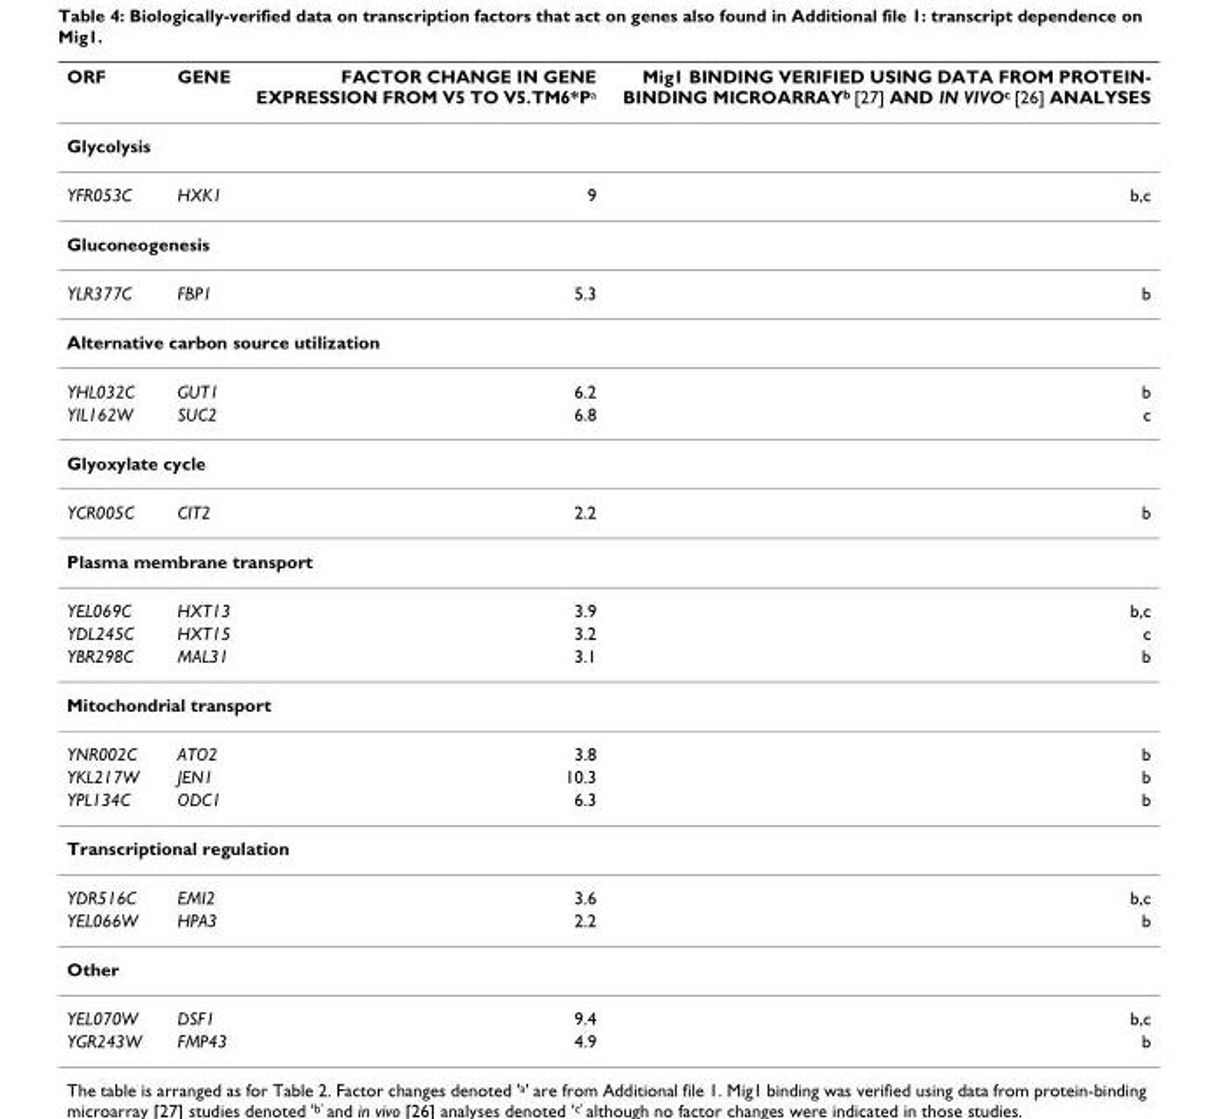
<table><thead><tr><td>ORF</td><td>GENE</td><td>FACTOR CHANGE IN GENE EXPRESSION FROM V5 TO V5.TM6*P<sup>a</sup></td><td>Mig1 BINDING VERIFIED USING DATA FROM PROTEIN- BINDING MICROARRAY<sup>b</sup> [27] AND IN VIVO<sup>c</sup> [26] ANALYSES</td></tr></thead><tbody><tr><td colspan="4">Glycolysis</td></tr><tr><td>YFR053C</td><td>HXK1</td><td>9</td><td>b,c</td></tr><tr><td colspan="4">Gluconeogenesis</td></tr><tr><td>YLR377C</td><td>FBP1</td><td>5.3</td><td>b</td></tr><tr><td colspan="4">Alternative carbon source utilization</td></tr><tr><td>YHL032C</td><td>GUT1</td><td>6.2</td><td>b</td></tr><tr><td>YIL162W</td><td>SUC2</td><td>6.8</td><td>c</td></tr><tr><td colspan="4">Glyoxylate cycle</td></tr><tr><td>YCR005C</td><td>CIT2</td><td>2.2</td><td>b</td></tr><tr><td colspan="4">Plasma membrane transport</td></tr><tr><td>YEL069C</td><td>HXT13</td><td>3.9</td><td>b,c</td></tr><tr><td>YDL245C</td><td>HXT15</td><td>3.2</td><td>c</td></tr><tr><td>YBR298C</td><td>MAL31</td><td>3.1</td><td>b</td></tr><tr><td colspan="4">Mitochondrial transport</td></tr><tr><td>YNR002C</td><td>ATO2</td><td>3.8</td><td>b</td></tr><tr><td>YKL217W</td><td>JEN1</td><td>10.3</td><td>b</td></tr><tr><td>YPL134C</td><td>ODC1</td><td>6.3</td><td>b</td></tr><tr><td colspan="4">Transcriptional regulation</td></tr><tr><td>YDR516C</td><td>EMI2</td><td>3.6</td><td>b,c</td></tr><tr><td>YEL066W</td><td>HPA3</td><td>2.2</td><td>b</td></tr><tr><td colspan="4">Other</td></tr><tr><td>YEL070W</td><td>DSF1</td><td>9.4</td><td>b,c</td></tr><tr><td>YGR243W</td><td>FMP43</td><td>4.9</td><td>b</td></tr></tbody></table>